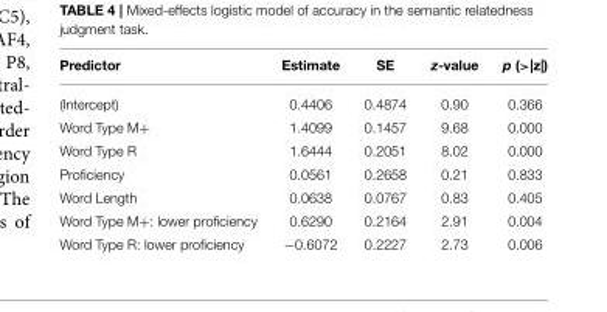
<table><thead><tr><td>Predictor</td><td>Estimate</td><td>SE</td><td>z-value</td><td>p (&gt;|z|)</td></tr></thead><tbody><tr><td>(Intercept)</td><td>0.4406</td><td>0.4874</td><td>0.90</td><td>0.366</td></tr><tr><td>Word Type M+</td><td>1.4099</td><td>0.1457</td><td>9.68</td><td>0.000</td></tr><tr><td>Word Type R</td><td>1.6444</td><td>0.2051</td><td>8.02</td><td>0.000</td></tr><tr><td>Proficiency</td><td>0.0561</td><td>0.2658</td><td>0.21</td><td>0.833</td></tr><tr><td>Word Length</td><td>0.0638</td><td>0.0767</td><td>0.83</td><td>0.405</td></tr><tr><td>Word Type M+: lower proficiency</td><td>0.6290</td><td>0.2164</td><td>2.91</td><td>0.004</td></tr><tr><td>Word Type R: lower proficiency</td><td>−0.6072</td><td>0.2227</td><td>2.73</td><td>0.006</td></tr></tbody></table>